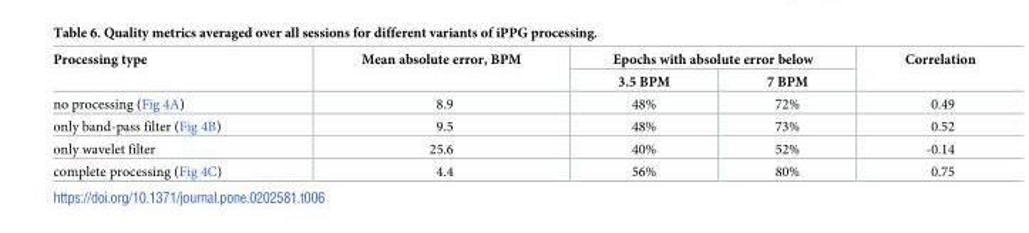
<table><thead><tr><td rowspan="2">Processing type</td><td rowspan="2">Mean absolute error, BPM</td><td colspan="2">Epochs with absolute error below</td><td rowspan="2">Correlation</td></tr><tr><td>3.5 BPM</td><td>7 BPM</td></tr></thead><tbody><tr><td>no processing (Fig 4A)</td><td>8.9</td><td>48%</td><td>72%</td><td>0.49</td></tr><tr><td>only band-pass filter (Fig 4B)</td><td>9.5</td><td>48%</td><td>73%</td><td>0.52</td></tr><tr><td>only wavelet filter</td><td>25.6</td><td>40%</td><td>52%</td><td>-0.14</td></tr><tr><td>complete processing (Fig 4C)</td><td>4.4</td><td>56%</td><td>80%</td><td>0.75</td></tr></tbody></table>